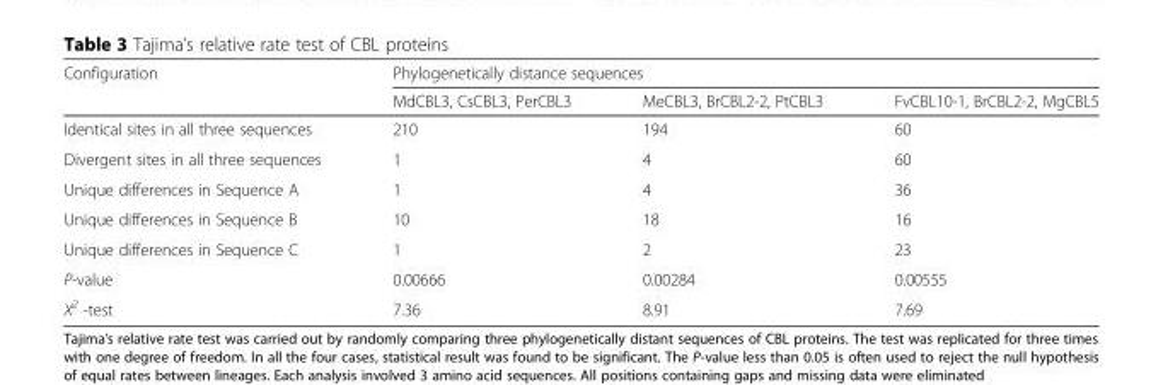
<table><thead><tr><td rowspan="2">Configuration</td><td colspan="3">Phylogenetically distance sequences</td></tr><tr><td>MdCBL3, CsCBL3, PerCBL3</td><td>MeCBL3, BrCBL2-2, PtCBL3</td><td>FvCBL10-1, BrCBL2-2, MgCBL5</td></tr></thead><tbody><tr><td>Identical sites in all three sequences</td><td>210</td><td>194</td><td>60</td></tr><tr><td>Divergent sites in all three sequences</td><td>1</td><td>4</td><td>60</td></tr><tr><td>Unique differences in Sequence A</td><td>1</td><td>4</td><td>36</td></tr><tr><td>Unique differences in Sequence B</td><td>10</td><td>18</td><td>16</td></tr><tr><td>Unique differences in Sequence C</td><td>1</td><td>2</td><td>23</td></tr><tr><td>P-value</td><td>0.00666</td><td>0.00284</td><td>0.00555</td></tr><tr><td>X<sup>2</sup> -test</td><td>7.36</td><td>8.91</td><td>7.69</td></tr></tbody></table>